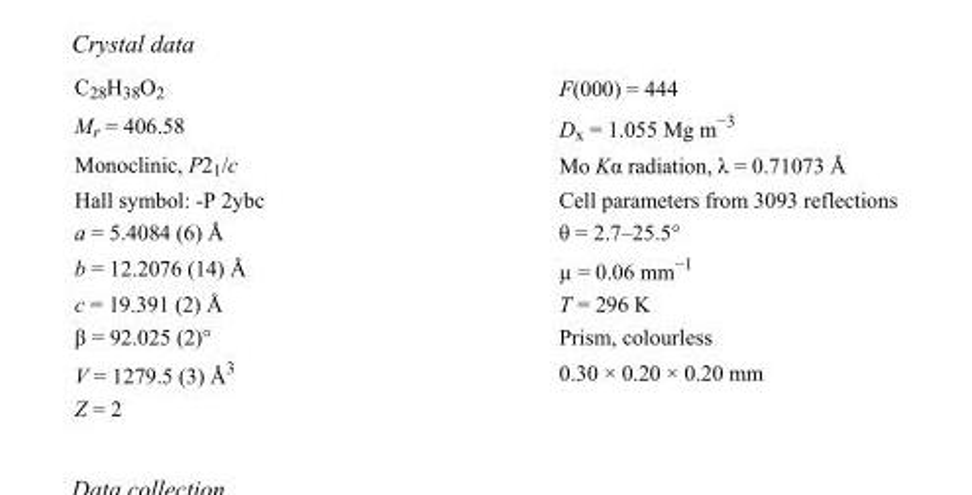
<table><tbody><tr><td>C<sub>28</sub>H<sub>38</sub>O<sub>2</sub></td><td>F(000) = 444</td></tr><tr><td>M<sub>r</sub> = 406.58</td><td>D<sub>x</sub> = 1.055 Mg m<sup>−3</sup></td></tr><tr><td>Monoclinic, P2<sub>1</sub>/c</td><td>Mo Kα radiation, λ = 0.71073 Å</td></tr><tr><td>Hall symbol: -P 2ybc</td><td>Cell parameters from 3093 reflections</td></tr><tr><td>a = 5.4084 (6) Å</td><td>θ = 2.7–25.5°</td></tr><tr><td>b = 12.2076 (14) Å</td><td>µ = 0.06 mm<sup>−1</sup></td></tr><tr><td>c = 19.391 (2) Å</td><td>T = 296 K</td></tr><tr><td>β = 92.025 (2)°</td><td>Prism, colourless</td></tr><tr><td>V = 1279.5 (3) Å<sup>3</sup></td><td>0.30 × 0.20 × 0.20 mm</td></tr><tr><td>Z = 2</td><td></td></tr></tbody></table>